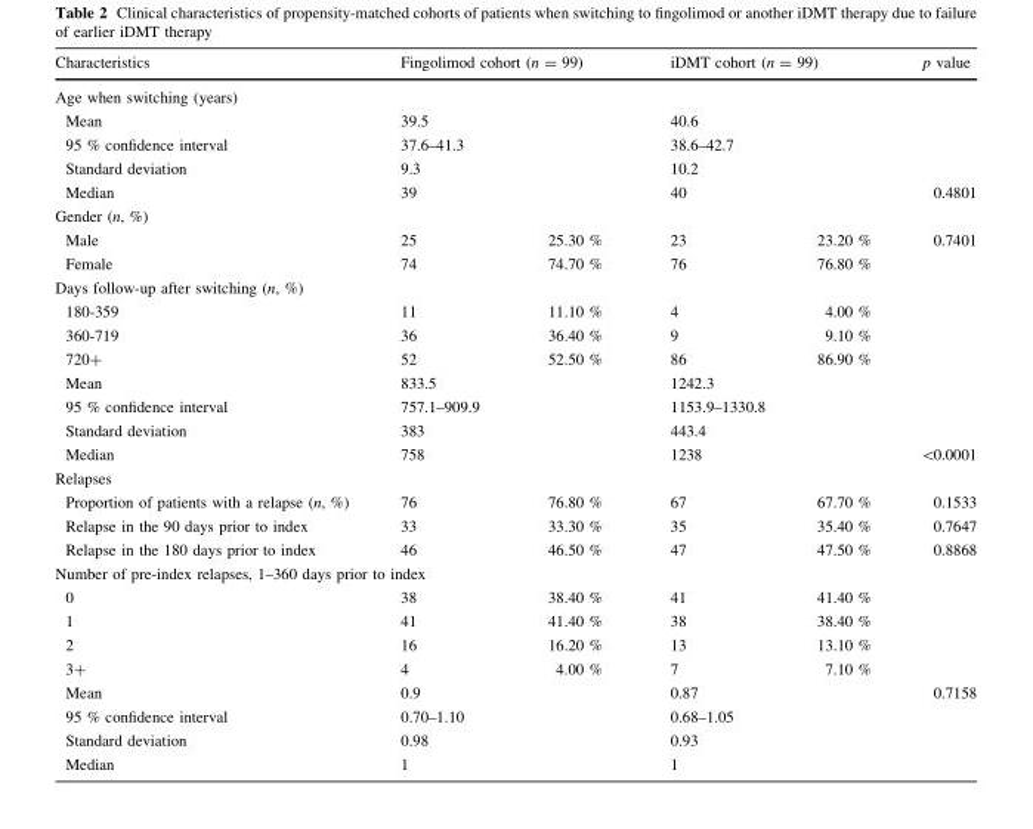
<table><thead><tr><td>Characteristics</td><td colspan="2">Fingolimod cohort (n = 99)</td><td colspan="2">iDMT cohort (n = 99)</td><td>p value</td></tr><tr><td colspan="6">Age when switching (years)</td></tr><tr><td>Mean</td><td>39.5</td><td></td><td>40.6</td><td></td><td></td></tr></thead><tbody><tr><td>95 % confidence interval</td><td>37.6–41.3</td><td></td><td>38.6–42.7</td><td></td><td></td></tr><tr><td>Standard deviation</td><td>9.3</td><td></td><td>10.2</td><td></td><td></td></tr><tr><td>Median</td><td>39</td><td></td><td>40</td><td></td><td>0.4801</td></tr><tr><td colspan="6">Gender (n, %)</td></tr><tr><td>Male</td><td>25</td><td>25.30 %</td><td>23</td><td>23.20 %</td><td>0.7401</td></tr><tr><td>Female</td><td>74</td><td>74.70 %</td><td>76</td><td>76.80 %</td><td></td></tr><tr><td colspan="6">Days follow-up after switching (n, %)</td></tr><tr><td>180-359</td><td>11</td><td>11.10 %</td><td>4</td><td>4.00 %</td><td></td></tr><tr><td>360-719</td><td>36</td><td>36.40 %</td><td>9</td><td>9.10 %</td><td></td></tr><tr><td>720+</td><td>52</td><td>52.50 %</td><td>86</td><td>86.90 %</td><td></td></tr><tr><td>Mean</td><td>833.5</td><td></td><td>1242.3</td><td></td><td></td></tr><tr><td>95 % confidence interval</td><td>757.1–909.9</td><td></td><td>1153.9–1330.8</td><td></td><td></td></tr><tr><td>Standard deviation</td><td>383</td><td></td><td>443.4</td><td></td><td></td></tr><tr><td>Median</td><td>758</td><td></td><td>1238</td><td></td><td>&lt;0.0001</td></tr><tr><td colspan="6">Relapses</td></tr><tr><td>Proportion of patients with a relapse (n, %)</td><td>76</td><td>76.80 %</td><td>67</td><td>67.70 %</td><td>0.1533</td></tr><tr><td>Relapse in the 90 days prior to index</td><td>33</td><td>33.30 %</td><td>35</td><td>35.40 %</td><td>0.7647</td></tr><tr><td>Relapse in the 180 days prior to index</td><td>46</td><td>46.50 %</td><td>47</td><td>47.50 %</td><td>0.8868</td></tr><tr><td colspan="6">Number of pre-index relapses, 1–360 days prior to index</td></tr><tr><td>0</td><td>38</td><td>38.40 %</td><td>41</td><td>41.40 %</td><td></td></tr><tr><td>1</td><td>41</td><td>41.40 %</td><td>38</td><td>38.40 %</td><td></td></tr><tr><td>2</td><td>16</td><td>16.20 %</td><td>13</td><td>13.10 %</td><td></td></tr><tr><td>3+</td><td>4</td><td>4.00 %</td><td>7</td><td>7.10 %</td><td></td></tr><tr><td>Mean</td><td>0.9</td><td></td><td>0.87</td><td></td><td>0.7158</td></tr><tr><td>95 % confidence interval</td><td>0.70–1.10</td><td></td><td>0.68–1.05</td><td></td><td></td></tr><tr><td>Standard deviation</td><td>0.98</td><td></td><td>0.93</td><td></td><td></td></tr><tr><td>Median</td><td>1</td><td></td><td>1</td><td></td><td></td></tr></tbody></table>